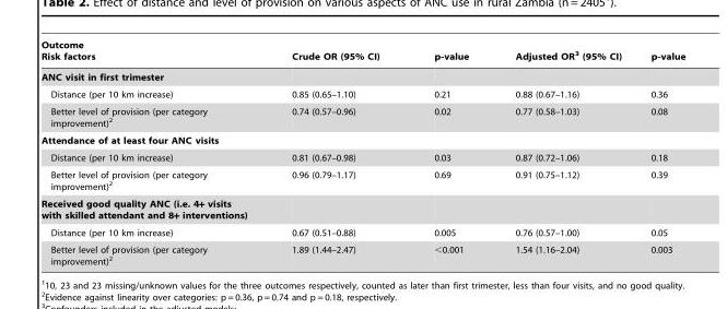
<table><thead><tr><td>Outcome Risk factors</td><td>Crude OR (95% CI)</td><td>p-value</td><td>Adjusted OR<sup>3</sup> (95% CI)</td><td>p-value</td></tr></thead><tbody><tr><td colspan="5">ANC visit in first trimester</td></tr><tr><td>Distance (per 10 km increase)</td><td>0.85 (0.65–1.10)</td><td>0.21</td><td>0.88 (0.67–1.16)</td><td>0.36</td></tr><tr><td>Better level of provision (per category improvement)<sup>2</sup></td><td>0.74 (0.57–0.96)</td><td>0.02</td><td>0.77 (0.58–1.03)</td><td>0.08</td></tr><tr><td colspan="5">Attendance of at least four ANC visits</td></tr><tr><td>Distance (per 10 km increase)</td><td>0.81 (0.67–0.98)</td><td>0.03</td><td>0.87 (0.72–1.06)</td><td>0.18</td></tr><tr><td>Better level of provision (per category improvement)<sup>2</sup></td><td>0.96 (0.79–1.17)</td><td>0.69</td><td>0.91 (0.75–1.12)</td><td>0.39</td></tr><tr><td colspan="5">Received good quality ANC (i.e. 4+ visits with skilled attendant and 8+ interventions)</td></tr><tr><td>Distance (per 10 km increase)</td><td>0.67 (0.51–0.88)</td><td>0.005</td><td>0.76 (0.57–1.00)</td><td>0.05</td></tr><tr><td>Better level of provision (per category improvement)<sup>2</sup></td><td>1.89 (1.44–2.47)</td><td>&lt;0.001</td><td>1.54 (1.16–2.04)</td><td>0.003</td></tr></tbody></table>